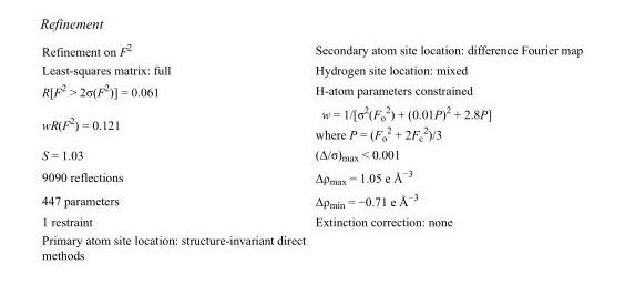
<table><tbody><tr><td>Refinement on F<sup>2</sup></td><td>Secondary atom site location: difference Fourier map</td></tr><tr><td>Least-squares matrix: full</td><td>Hydrogen site location: mixed</td></tr><tr><td>R[F<sup>2</sup> &gt; 2σ(F<sup>2</sup>)] = 0.061</td><td>H-atom parameters constrained</td></tr><tr><td>wR(F<sup>2</sup>) = 0.121</td><td>w = 1/[σ<sup>2</sup>(F<sub>o</sub> <sup>2</sup>) + (0.01P)<sup>2</sup> + 2.8P] where P = (F<sub>o</sub> <sup>2</sup> + 2F<sub>c</sub> <sup>2</sup>)/3</td></tr><tr><td>S = 1.03</td><td>(Δ/σ)<sub>max</sub> &lt; 0.001</td></tr><tr><td>9090 reflections</td><td>Δρ<sub>max</sub> = 1.05 e Å<sup>−3</sup></td></tr><tr><td>447 parameters</td><td>Δρ<sub>min</sub> = −0.71 e Å<sup>−3</sup></td></tr><tr><td>1 restraint</td><td>Extinction correction: none</td></tr><tr><td>Primary atom site location: structure-invariant direct methods</td><td></td></tr></tbody></table>